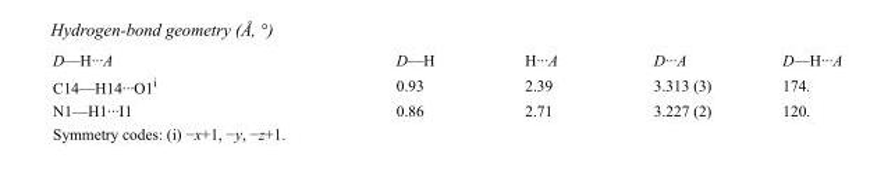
<table><tbody><tr><td>D—H···A</td><td>D—H</td><td>H···A</td><td>D···A</td><td>D—H···A</td></tr><tr><td>C14—H14···O1<sup>i</sup></td><td>0.93</td><td>2.39</td><td>3.313 (3)</td><td>174.</td></tr><tr><td>N1—H1···I1</td><td>0.86</td><td>2.71</td><td>3.227 (2)</td><td>120.</td></tr></tbody></table>